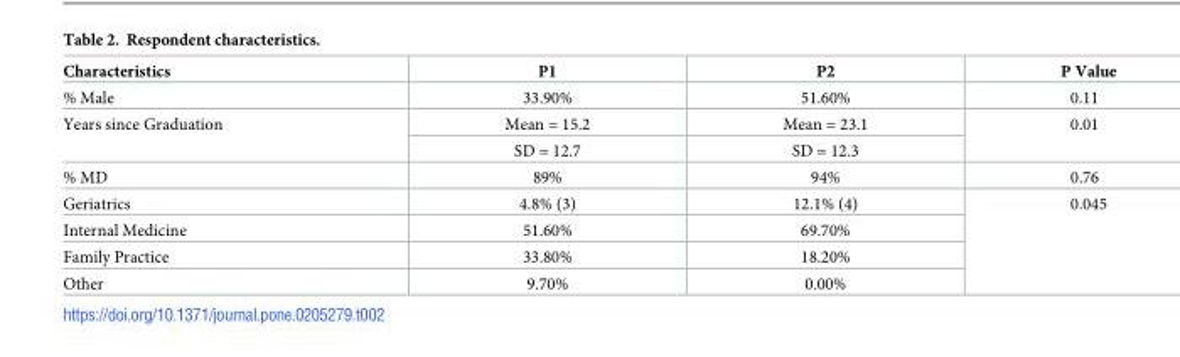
<table><thead><tr><td>Characteristics</td><td>P1</td><td>P2</td><td>P Value</td></tr></thead><tbody><tr><td>% Male</td><td>33.90%</td><td>51.60%</td><td>0.11</td></tr><tr><td rowspan="2">Years since Graduation</td><td>Mean = 15.2</td><td>Mean = 23.1</td><td rowspan="2">0.01</td></tr><tr><td>SD = 12.7</td><td>SD = 12.3</td></tr><tr><td>% MD</td><td>89%</td><td>94%</td><td>0.76</td></tr><tr><td>Geriatrics</td><td>4.8% (3)</td><td>12.1% (4)</td><td rowspan="4">0.045</td></tr><tr><td>Internal Medicine</td><td>51.60%</td><td>69.70%</td></tr><tr><td>Family Practice</td><td>33.80%</td><td>18.20%</td></tr><tr><td>Other</td><td>9.70%</td><td>0.00%</td></tr></tbody></table>